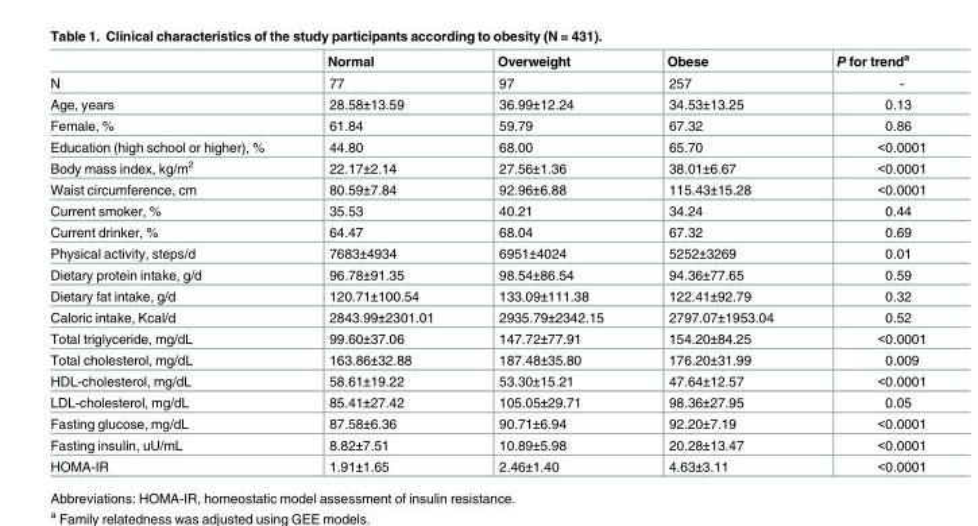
<table><thead><tr><td></td><td>Normal</td><td>Overweight</td><td>Obese</td><td>P for trend<sup>a</sup></td></tr></thead><tbody><tr><td>N</td><td>77</td><td>97</td><td>257</td><td>-</td></tr><tr><td>Age, years</td><td>28.58±13.59</td><td>36.99±12.24</td><td>34.53±13.25</td><td>0.13</td></tr><tr><td>Female, %</td><td>61.84</td><td>59.79</td><td>67.32</td><td>0.86</td></tr><tr><td>Education (high school or higher), %</td><td>44.80</td><td>68.00</td><td>65.70</td><td>&lt;0.0001</td></tr><tr><td>Body mass index, kg/m<sup>2</sup></td><td>22.17±2.14</td><td>27.56±1.36</td><td>38.01±6.67</td><td>&lt;0.0001</td></tr><tr><td>Waist circumference, cm</td><td>80.59±7.84</td><td>92.96±6.88</td><td>115.43±15.28</td><td>&lt;0.0001</td></tr><tr><td>Current smoker, %</td><td>35.53</td><td>40.21</td><td>34.24</td><td>0.44</td></tr><tr><td>Current drinker, %</td><td>64.47</td><td>68.04</td><td>67.32</td><td>0.69</td></tr><tr><td>Physical activity, steps/d</td><td>7683±4934</td><td>6951±4024</td><td>5252±3269</td><td>0.01</td></tr><tr><td>Dietary protein intake, g/d</td><td>96.78±91.35</td><td>98.54±86.54</td><td>94.36±77.65</td><td>0.59</td></tr><tr><td>Dietary fat intake, g/d</td><td>120.71±100.54</td><td>133.09±111.38</td><td>122.41±92.79</td><td>0.32</td></tr><tr><td>Caloric intake, Kcal/d</td><td>2843.99±2301.01</td><td>2935.79±2342.15</td><td>2797.07±1953.04</td><td>0.52</td></tr><tr><td>Total triglyceride, mg/dL</td><td>99.60±37.06</td><td>147.72±77.91</td><td>154.20±84.25</td><td>&lt;0.0001</td></tr><tr><td>Total cholesterol, mg/dL</td><td>163.86±32.88</td><td>187.48±35.80</td><td>176.20±31.99</td><td>0.009</td></tr><tr><td>HDL-cholesterol, mg/dL</td><td>58.61±19.22</td><td>53.30±15.21</td><td>47.64±12.57</td><td>&lt;0.0001</td></tr><tr><td>LDL-cholesterol, mg/dL</td><td>85.41±27.42</td><td>105.05±29.71</td><td>98.36±27.95</td><td>0.05</td></tr><tr><td>Fasting glucose, mg/dL</td><td>87.58±6.36</td><td>90.71±6.94</td><td>92.20±7.19</td><td>&lt;0.0001</td></tr><tr><td>Fasting insulin, uU/mL</td><td>8.82±7.51</td><td>10.89±5.98</td><td>20.28±13.47</td><td>&lt;0.0001</td></tr><tr><td>HOMA-IR</td><td>1.91±1.65</td><td>2.46±1.40</td><td>4.63±3.11</td><td>&lt;0.0001</td></tr></tbody></table>